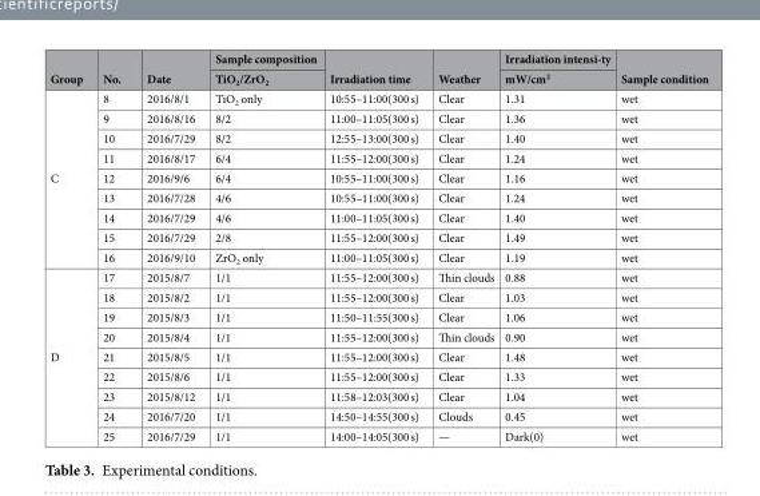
<table><thead><tr><td rowspan="2">Group</td><td rowspan="2">No.</td><td rowspan="2">Date</td><td rowspan="2">Sample composition TiO<sub>2</sub>/ZrO<sub>2</sub></td><td rowspan="2">Irradiation time</td><td rowspan="2">Weather</td><td rowspan="2">Irradiation intensi-ty mW/cm<sup>2</sup></td><td rowspan="2">Sample condition</td></tr><tr></tr></thead><tbody><tr><td rowspan="9">C</td><td>8</td><td>2016/8/1</td><td>TiO<sub>2</sub> only</td><td>10:55–11:00(300 s)</td><td>Clear</td><td>1.31</td><td>wet</td></tr><tr><td>9</td><td>2016/8/16</td><td>8/2</td><td>11:00–11:05(300 s)</td><td>Clear</td><td>1.36</td><td>wet</td></tr><tr><td>10</td><td>2016/7/29</td><td>8/2</td><td>12:55–13:00(300 s)</td><td>Clear</td><td>1.40</td><td>wet</td></tr><tr><td>11</td><td>2016/8/17</td><td>6/4</td><td>11:55–12:00(300 s)</td><td>Clear</td><td>1.24</td><td>wet</td></tr><tr><td>12</td><td>2016/9/6</td><td>6/4</td><td>10:55–11:00(300 s)</td><td>Clear</td><td>1.16</td><td>wet</td></tr><tr><td>13</td><td>2016/7/28</td><td>4/6</td><td>10:55–11:00(300 s)</td><td>Clear</td><td>1.24</td><td>wet</td></tr><tr><td>14</td><td>2016/7/29</td><td>4/6</td><td>11:00–11:05(300 s)</td><td>Clear</td><td>1.40</td><td>wet</td></tr><tr><td>15</td><td>2016/7/29</td><td>2/8</td><td>11:55–12:00(300 s)</td><td>Clear</td><td>1.49</td><td>wet</td></tr><tr><td>16</td><td>2016/9/10</td><td>ZrO<sub>2</sub> only</td><td>11:00–11:05(300 s)</td><td>Clear</td><td>1.19</td><td>wet</td></tr><tr><td rowspan="9">D</td><td>17</td><td>2015/8/7</td><td>1/1</td><td>11:55–12:00(300 s)</td><td>Thin clouds</td><td>0.88</td><td>wet</td></tr><tr><td>18</td><td>2015/8/2</td><td>1/1</td><td>11:55–12:00(300 s)</td><td>Clear</td><td>1.03</td><td>wet</td></tr><tr><td>19</td><td>2015/8/3</td><td>1/1</td><td>11:50–11:55(300 s)</td><td>Clear</td><td>1.06</td><td>wet</td></tr><tr><td>20</td><td>2015/8/4</td><td>1/1</td><td>11:55–12:00(300 s)</td><td>Thin clouds</td><td>0.90</td><td>wet</td></tr><tr><td>21</td><td>2015/8/5</td><td>1/1</td><td>11:55–12:00(300 s)</td><td>Clear</td><td>1.48</td><td>wet</td></tr><tr><td>22</td><td>2015/8/6</td><td>1/1</td><td>11:55–12:00(300 s)</td><td>Clear</td><td>1.33</td><td>wet</td></tr><tr><td>23</td><td>2015/8/12</td><td>1/1</td><td>11:58–12:03(300 s)</td><td>Clear</td><td>1.04</td><td>wet</td></tr><tr><td>24</td><td>2016/7/20</td><td>1/1</td><td>14:50–14:55(300 s)</td><td>Clouds</td><td>0.45</td><td>wet</td></tr><tr><td>25</td><td>2016/7/29</td><td>1/1</td><td>14:00–14:05(300 s)</td><td>—</td><td>Dark(0)</td><td>wet</td></tr></tbody></table>